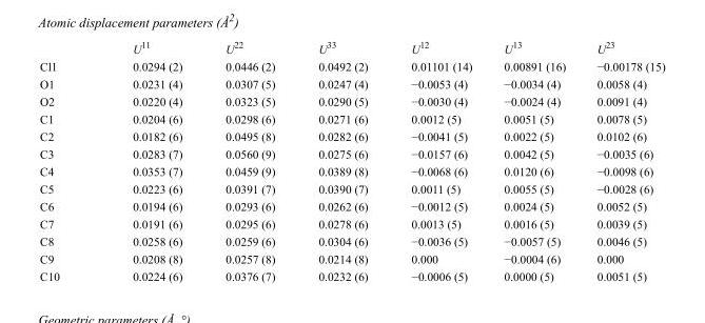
<table><thead><tr><td></td><td>U<sup>11</sup></td><td>U<sup>22</sup></td><td>U<sup>33</sup></td><td>U<sup>12</sup></td><td>U<sup>13</sup></td><td>U<sup>23</sup></td></tr></thead><tbody><tr><td>Cl1</td><td>0.0294 (2)</td><td>0.0446 (2)</td><td>0.0492 (2)</td><td>0.01101 (14)</td><td>0.00891 (16)</td><td>−0.00178 (15)</td></tr><tr><td>O1</td><td>0.0231 (4)</td><td>0.0307 (5)</td><td>0.0247 (4)</td><td>−0.0053 (4)</td><td>−0.0034 (4)</td><td>0.0058 (4)</td></tr><tr><td>O2</td><td>0.0220 (4)</td><td>0.0323 (5)</td><td>0.0290 (5)</td><td>−0.0030 (4)</td><td>−0.0024 (4)</td><td>0.0091 (4)</td></tr><tr><td>C1</td><td>0.0204 (6)</td><td>0.0298 (6)</td><td>0.0271 (6)</td><td>0.0012 (5)</td><td>0.0051 (5)</td><td>0.0078 (5)</td></tr><tr><td>C2</td><td>0.0182 (6)</td><td>0.0495 (8)</td><td>0.0282 (6)</td><td>−0.0041 (5)</td><td>0.0022 (5)</td><td>0.0102 (6)</td></tr><tr><td>C3</td><td>0.0283 (7)</td><td>0.0560 (9)</td><td>0.0275 (6)</td><td>−0.0157 (6)</td><td>0.0042 (5)</td><td>−0.0035 (6)</td></tr><tr><td>C4</td><td>0.0353 (7)</td><td>0.0459 (9)</td><td>0.0389 (8)</td><td>−0.0068 (6)</td><td>0.0120 (6)</td><td>−0.0098 (6)</td></tr><tr><td>C5</td><td>0.0223 (6)</td><td>0.0391 (7)</td><td>0.0390 (7)</td><td>0.0011 (5)</td><td>0.0055 (5)</td><td>−0.0028 (6)</td></tr><tr><td>C6</td><td>0.0194 (6)</td><td>0.0293 (6)</td><td>0.0262 (6)</td><td>−0.0012 (5)</td><td>0.0024 (5)</td><td>0.0052 (5)</td></tr><tr><td>C7</td><td>0.0191 (6)</td><td>0.0295 (6)</td><td>0.0278 (6)</td><td>0.0013 (5)</td><td>0.0016 (5)</td><td>0.0039 (5)</td></tr><tr><td>C8</td><td>0.0258 (6)</td><td>0.0259 (6)</td><td>0.0304 (6)</td><td>−0.0036 (5)</td><td>−0.0057 (5)</td><td>0.0046 (5)</td></tr><tr><td>C9</td><td>0.0208 (8)</td><td>0.0257 (8)</td><td>0.0214 (8)</td><td>0.000</td><td>−0.0004 (6)</td><td>0.000</td></tr><tr><td>C10</td><td>0.0224 (6)</td><td>0.0376 (7)</td><td>0.0232 (6)</td><td>−0.0006 (5)</td><td>0.0000 (5)</td><td>0.0051 (5)</td></tr></tbody></table>